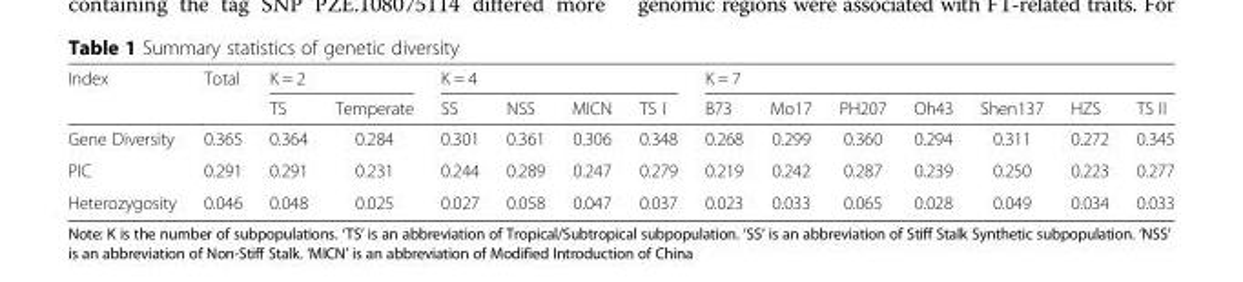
<table><thead><tr><td rowspan="2">Index</td><td rowspan="2">Total</td><td colspan="2">K = 2</td><td colspan="4">K = 4</td><td colspan="7">K = 7</td></tr><tr><td>TS</td><td>Temperate</td><td>SS</td><td>NSS</td><td>MICN</td><td>TS I</td><td>B73</td><td>Mo17</td><td>PH207</td><td>Oh43</td><td>Shen137</td><td>HZS</td><td>TS II</td></tr></thead><tbody><tr><td>Gene Diversity</td><td>0.365</td><td>0.364</td><td>0.284</td><td>0.301</td><td>0.361</td><td>0.306</td><td>0.348</td><td>0.268</td><td>0.299</td><td>0.360</td><td>0.294</td><td>0.311</td><td>0.272</td><td>0.345</td></tr><tr><td>PIC</td><td>0.291</td><td>0.291</td><td>0.231</td><td>0.244</td><td>0.289</td><td>0.247</td><td>0.279</td><td>0.219</td><td>0.242</td><td>0.287</td><td>0.239</td><td>0.250</td><td>0.223</td><td>0.277</td></tr><tr><td>Heterozygosity</td><td>0.046</td><td>0.048</td><td>0.025</td><td>0.027</td><td>0.058</td><td>0.047</td><td>0.037</td><td>0.023</td><td>0.033</td><td>0.065</td><td>0.028</td><td>0.049</td><td>0.034</td><td>0.033</td></tr></tbody></table>